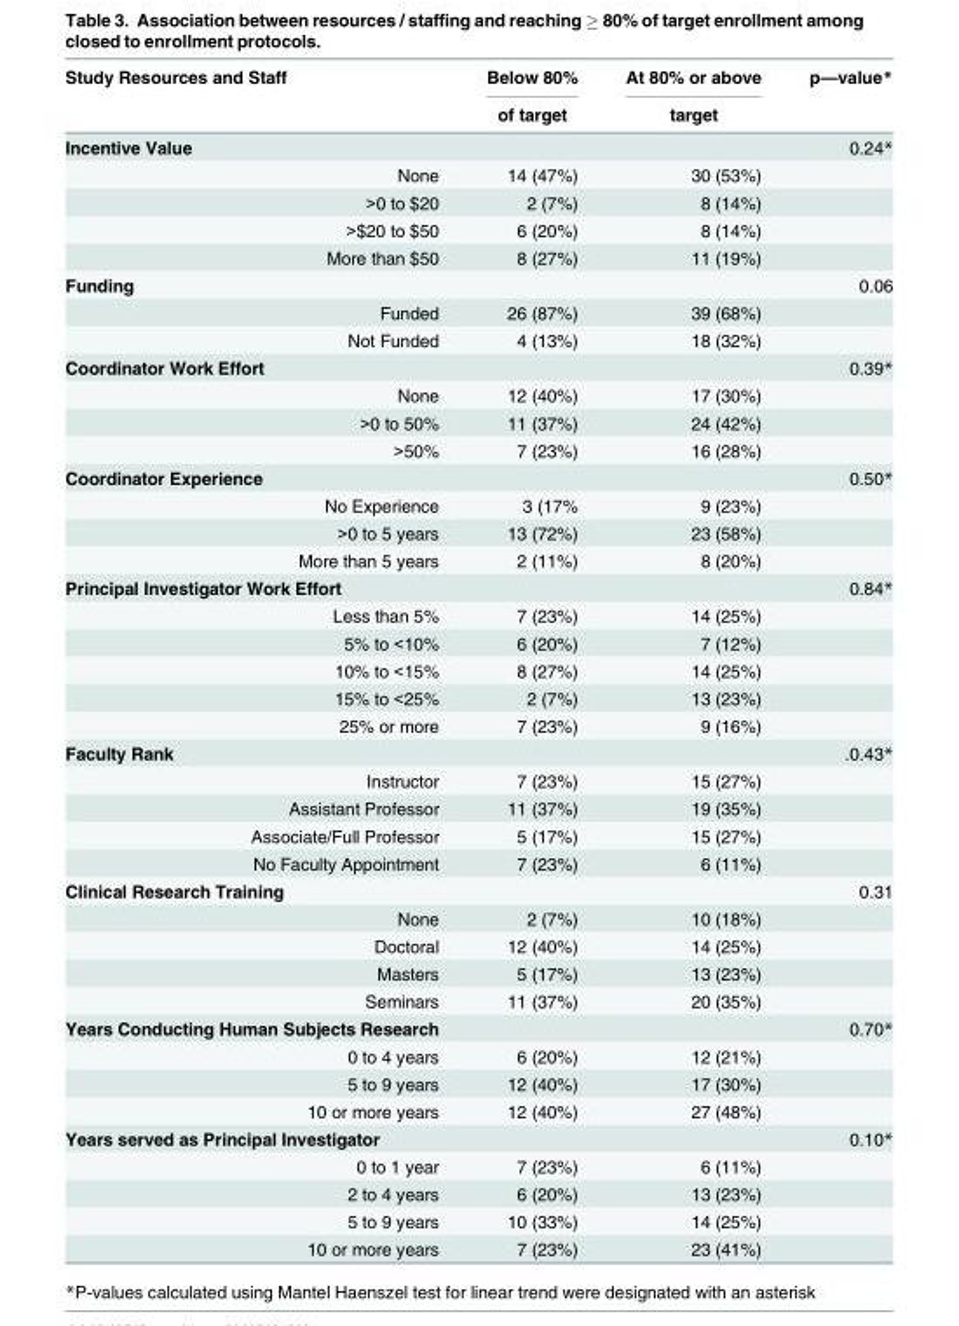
<table><thead><tr><td rowspan="2">Study Resources and Staff</td><td rowspan="2">Below 80% of target</td><td rowspan="2">At 80% or above target</td><td rowspan="2">p—value*</td></tr><tr></tr></thead><tbody><tr><td>Incentive Value</td><td></td><td></td><td>0.24*</td></tr><tr><td>None</td><td>14 (47%)</td><td>30 (53%)</td><td></td></tr><tr><td>&gt;0 to $20</td><td>2 (7%)</td><td>8 (14%)</td><td></td></tr><tr><td>&gt;$20 to $50</td><td>6 (20%)</td><td>8 (14%)</td><td></td></tr><tr><td>More than $50</td><td>8 (27%)</td><td>11 (19%)</td><td></td></tr><tr><td>Funding</td><td></td><td></td><td>0.06</td></tr><tr><td>Funded</td><td>26 (87%)</td><td>39 (68%)</td><td></td></tr><tr><td>Not Funded</td><td>4 (13%)</td><td>18 (32%)</td><td></td></tr><tr><td>Coordinator Work Effort</td><td></td><td></td><td>0.39*</td></tr><tr><td>None</td><td>12 (40%)</td><td>17 (30%)</td><td></td></tr><tr><td>&gt;0 to 50%</td><td>11 (37%)</td><td>24 (42%)</td><td></td></tr><tr><td>&gt;50%</td><td>7 (23%)</td><td>16 (28%)</td><td></td></tr><tr><td>Coordinator Experience</td><td></td><td></td><td>0.50*</td></tr><tr><td>No Experience</td><td>3 (17%</td><td>9 (23%)</td><td></td></tr><tr><td>&gt;0 to 5 years</td><td>13 (72%)</td><td>23 (58%)</td><td></td></tr><tr><td>More than 5 years</td><td>2 (11%)</td><td>8 (20%)</td><td></td></tr><tr><td>Principal Investigator Work Effort</td><td></td><td></td><td>0.84*</td></tr><tr><td>Less than 5%</td><td>7 (23%)</td><td>14 (25%)</td><td></td></tr><tr><td>5% to &lt;10%</td><td>6 (20%)</td><td>7 (12%)</td><td></td></tr><tr><td>10% to &lt;15%</td><td>8 (27%)</td><td>14 (25%)</td><td></td></tr><tr><td>15% to &lt;25%</td><td>2 (7%)</td><td>13 (23%)</td><td></td></tr><tr><td>25% or more</td><td>7 (23%)</td><td>9 (16%)</td><td></td></tr><tr><td>Faculty Rank</td><td></td><td></td><td>.0.43*</td></tr><tr><td>Instructor</td><td>7 (23%)</td><td>15 (27%)</td><td></td></tr><tr><td>Assistant Professor</td><td>11 (37%)</td><td>19 (35%)</td><td></td></tr><tr><td>Associate/Full Professor</td><td>5 (17%)</td><td>15 (27%)</td><td></td></tr><tr><td>No Faculty Appointment</td><td>7 (23%)</td><td>6 (11%)</td><td></td></tr><tr><td>Clinical Research Training</td><td></td><td></td><td>0.31</td></tr><tr><td>None</td><td>2 (7%)</td><td>10 (18%)</td><td></td></tr><tr><td>Doctoral</td><td>12 (40%)</td><td>14 (25%)</td><td></td></tr><tr><td>Masters</td><td>5 (17%)</td><td>13 (23%)</td><td></td></tr><tr><td>Seminars</td><td>11 (37%)</td><td>20 (35%)</td><td></td></tr><tr><td>Years Conducting Human Subjects Research</td><td></td><td></td><td>0.70*</td></tr><tr><td>0 to 4 years</td><td>6 (20%)</td><td>12 (21%)</td><td></td></tr><tr><td>5 to 9 years</td><td>12 (40%)</td><td>17 (30%)</td><td></td></tr><tr><td>10 or more years</td><td>12 (40%)</td><td>27 (48%)</td><td></td></tr><tr><td>Years served as Principal Investigator</td><td></td><td></td><td>0.10*</td></tr><tr><td>0 to 1 year</td><td>7 (23%)</td><td>6 (11%)</td><td></td></tr><tr><td>2 to 4 years</td><td>6 (20%)</td><td>13 (23%)</td><td></td></tr><tr><td>5 to 9 years</td><td>10 (33%)</td><td>14 (25%)</td><td></td></tr><tr><td>10 or more years</td><td>7 (23%)</td><td>23 (41%)</td><td></td></tr></tbody></table>